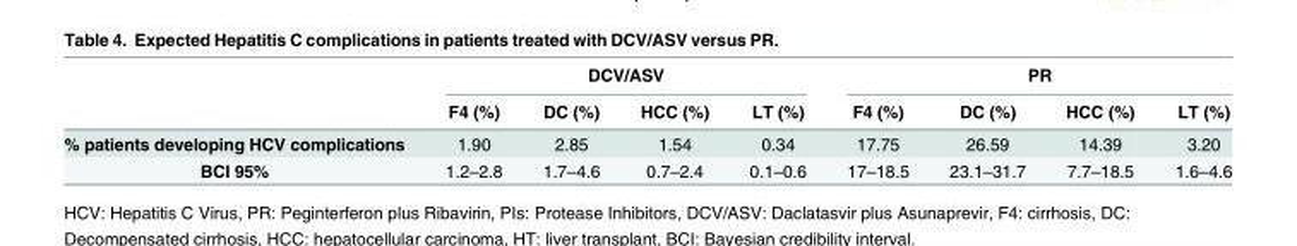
<table><thead><tr><td rowspan="2"></td><td colspan="4">DCV/ASV</td><td colspan="4">PR</td></tr><tr><td>F4 (%)</td><td>DC (%)</td><td>HCC (%)</td><td>LT (%)</td><td>F4 (%)</td><td>DC (%)</td><td>HCC (%)</td><td>LT (%)</td></tr></thead><tbody><tr><td>% patients developing HCV complications</td><td>1.90</td><td>2.85</td><td>1.54</td><td>0.34</td><td>17.75</td><td>26.59</td><td>14.39</td><td>3.20</td></tr><tr><td>BCI 95%</td><td>1.2–2.8</td><td>1.7–4.6</td><td>0.7–2.4</td><td>0.1–0.6</td><td>17–18.5</td><td>23.1–31.7</td><td>7.7–18.5</td><td>1.6–4.6</td></tr></tbody></table>